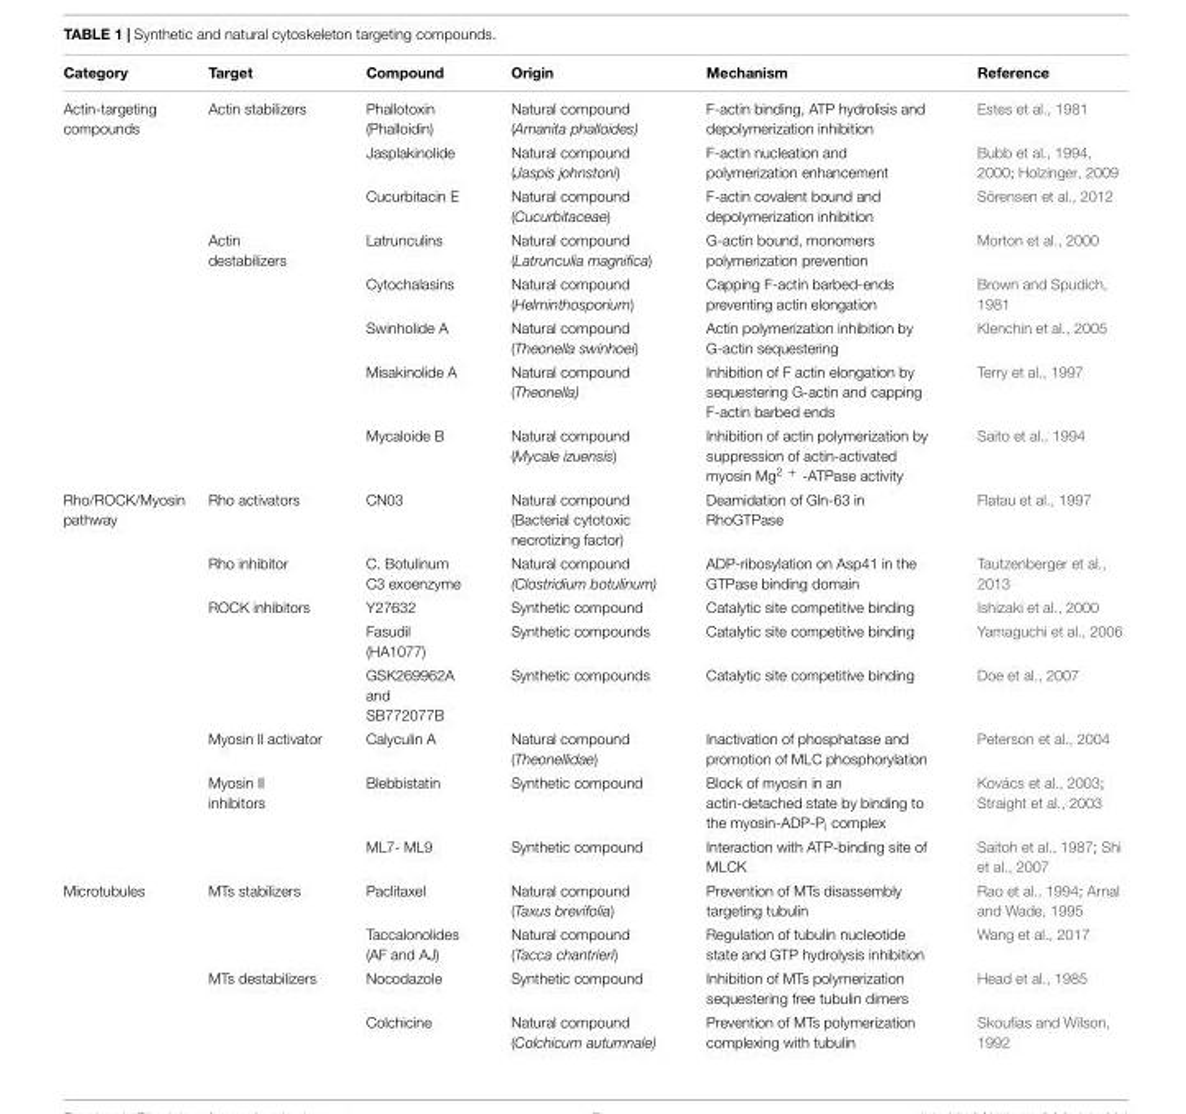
<table><thead><tr><td>Category</td><td>Target</td><td>Compound</td><td>Origin</td><td>Mechanism</td><td>Reference</td></tr></thead><tbody><tr><td rowspan="8">Actin-targeting compounds</td><td>Actin stabilizers</td><td>Phallotoxin (Phalloidin)</td><td>Natural compound (Amanita phalloides)</td><td>F-actin binding, ATP hydrolisis and depolymerization inhibition</td><td>Estes et al., 1981</td></tr><tr><td></td><td>Jasplakinolide</td><td>Natural compound (Jaspis johnstoni)</td><td>F-actin nucleation and polymerization enhancement</td><td>Bubb et al., 1994, 2000; Holzinger, 2009</td></tr><tr><td></td><td>Cucurbitacin E</td><td>Natural compound (Cucurbitaceae)</td><td>F-actin covalent bound and depolymerization inhibition</td><td>Sörensen et al., 2012</td></tr><tr><td>Actin destabilizers</td><td>Latrunculins</td><td>Natural compound (Latrunculia magnifica)</td><td>G-actin bound, monomers polymerization prevention</td><td>Morton et al., 2000</td></tr><tr><td></td><td>Cytochalasins</td><td>Natural compound (Helminthosporium)</td><td>Capping F-actin barbed-ends preventing actin elongation</td><td>Brown and Spudich, 1981</td></tr><tr><td></td><td>Swinholide A</td><td>Natural compound (Theonella swinhoei)</td><td>Actin polymerization inhibition by G-actin sequestering</td><td>Klenchin et al., 2005</td></tr><tr><td></td><td>Misakinolide A</td><td>Natural compound (Theonella)</td><td>Inhibition of F actin elongation by sequestering G-actin and capping F-actin barbed ends</td><td>Terry et al., 1997</td></tr><tr><td></td><td>Mycaloide B</td><td>Natural compound (Mycale izuensis)</td><td>Inhibition of actin polymerization by suppression of actin-activated myosin Mg<sup>2 +</sup> -ATPase activity</td><td>Saito et al., 1994</td></tr><tr><td rowspan="8">Rho/ROCK/Myosin pathway</td><td>Rho activators</td><td>CN03</td><td>Natural compound (Bacterial cytotoxic necrotizing factor)</td><td>Deamidation of Gln-63 in RhoGTPase</td><td>Flatau et al., 1997</td></tr><tr><td>Rho inhibitor</td><td>C. Botulinum C3 exoenzyme</td><td>Natural compound (Clostridium botulinum)</td><td>ADP-ribosylation on Asp41 in the GTPase binding domain</td><td>Tautzenberger et al., 2013</td></tr><tr><td>ROCK inhibitors</td><td>Y27632</td><td>Synthetic compound</td><td>Catalytic site competitive binding</td><td>Ishizaki et al., 2000</td></tr><tr><td></td><td>Fasudil (HA1077)</td><td>Synthetic compounds</td><td>Catalytic site competitive binding</td><td>Yamaguchi et al., 2006</td></tr><tr><td></td><td>GSK269962A and SB772077B</td><td>Synthetic compounds</td><td>Catalytic site competitive binding</td><td>Doe et al., 2007</td></tr><tr><td>Myosin II activator</td><td>Calyculin A</td><td>Natural compound (Theonellidae)</td><td>Inactivation of phosphatase and promotion of MLC phosphorylation</td><td>Peterson et al., 2004</td></tr><tr><td>Myosin II inhibitors</td><td>Blebbistatin</td><td>Synthetic compound</td><td>Block of myosin in an actin-detached state by binding to the myosin-ADP-P<sub>i</sub> complex</td><td>Kovács et al., 2003; Straight et al., 2003</td></tr><tr><td></td><td>ML7- ML9</td><td>Synthetic compound</td><td>Interaction with ATP-binding site of MLCK</td><td>Saitoh et al., 1987; Shi et al., 2007</td></tr><tr><td rowspan="4">Microtubules</td><td>MTs stabilizers</td><td>Paclitaxel</td><td>Natural compound (Taxus brevifolia)</td><td>Prevention of MTs disassembly targeting tubulin</td><td>Rao et al., 1994; Arnal and Wade, 1995</td></tr><tr><td></td><td>Taccalonolides (AF and AJ)</td><td>Natural compound (Tacca chantrieri)</td><td>Regulation of tubulin nucleotide state and GTP hydrolysis inhibition</td><td>Wang et al., 2017</td></tr><tr><td>MTs destabilizers</td><td>Nocodazole</td><td>Synthetic compound</td><td>Inhibition of MTs polymerization sequestering free tubulin dimers</td><td>Head et al., 1985</td></tr><tr><td></td><td>Colchicine</td><td>Natural compound (Colchicum autumnale)</td><td>Prevention of MTs polymerization complexing with tubulin</td><td>Skoufias and Wilson, 1992</td></tr></tbody></table>